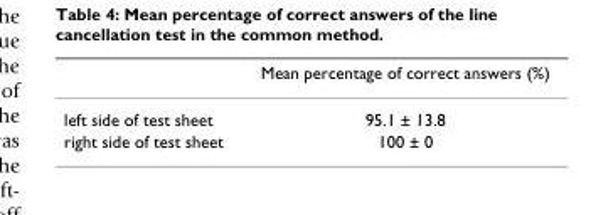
<table><thead><tr><td></td><td>Mean percentage of correct answers (%)</td></tr></thead><tbody><tr><td>left side of test sheet</td><td>95.1 ± 13.8</td></tr><tr><td>right side of test sheet</td><td>100 ± 0</td></tr></tbody></table>